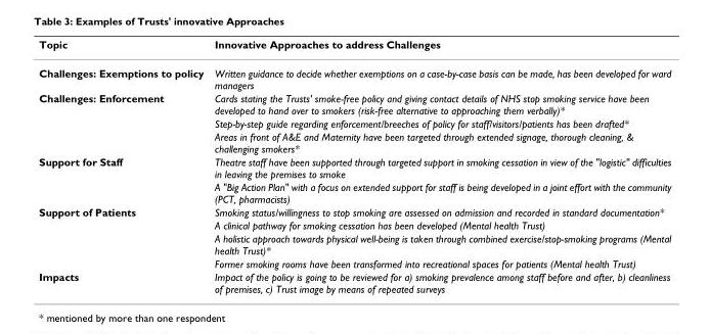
<table><thead><tr><td>Topic</td><td>Innovative Approaches to address Challenges</td></tr></thead><tbody><tr><td>Challenges: Exemptions to policy</td><td>Written guidance to decide whether exemptions on a case-by-case basis can be made, has been developed for ward managers</td></tr><tr><td rowspan="3">Challenges: Enforcement</td><td>Cards stating the Trusts&#x27; smoke-free policy and giving contact details of NHS stop smoking service have been developed to hand over to smokers (risk-free alternative to approaching them verbally)*</td></tr><tr><td>Step-by-step guide regarding enforcement/breeches of policy for staff/visitors/patients has been drafted*</td></tr><tr><td>Areas in front of A&amp;E and Maternity have been targeted through extended signage, thorough cleaning, &amp; challenging smokers*</td></tr><tr><td rowspan="2">Support for Staff</td><td>Theatre staff have been supported through targeted support in smoking cessation in view of the &quot;logistic&quot; difficulties in leaving the premises to smoke</td></tr><tr><td>A &quot;Big Action Plan&quot; with a focus on extended support for staff is being developed in a joint effort with the community (PCT, pharmacists)</td></tr><tr><td rowspan="4">Support of Patients</td><td>Smoking status/willingness to stop smoking are assessed on admission and recorded in standard documentation*</td></tr><tr><td>A clinical pathway for smoking cessation has been developed (Mental health Trust)</td></tr><tr><td>A holistic approach towards physical well-being is taken through combined exercise/stop-smoking programs (Mental health Trust)*</td></tr><tr><td>Former smoking rooms have been transformed into recreational spaces for patients (Mental health Trust)</td></tr><tr><td>Impacts</td><td>Impact of the policy is going to be reviewed for a) smoking prevalence among staff before and after, b) cleanliness of premises, c) Trust image by means of repeated surveys</td></tr></tbody></table>